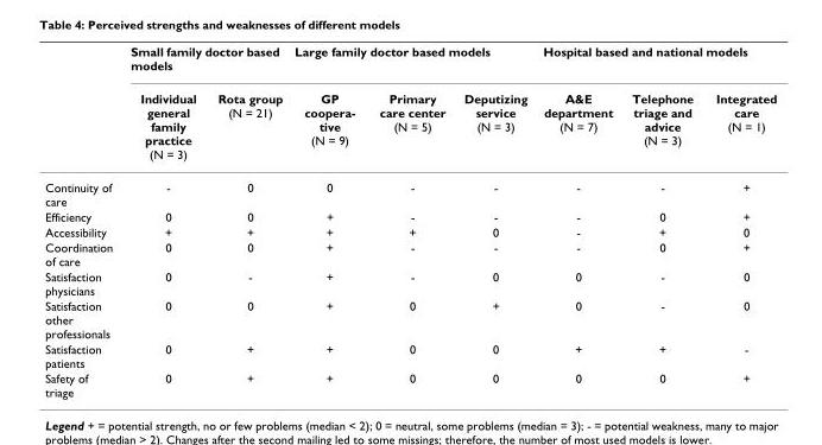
<table><thead><tr><td rowspan="2"></td><td colspan="2">Small family doctor based models</td><td colspan="3">Large family doctor based models</td><td colspan="3">Hospital based and national models</td></tr><tr><td>Individual general family practice (N = 3)</td><td>Rota group (N = 21)</td><td>GP coopera- tive (N = 9)</td><td>Primary care center (N = 5)</td><td>Deputizing service (N = 3)</td><td>A&amp;E department (N = 7)</td><td>Telephone triage and advice (N = 3)</td><td>Integrated care (N = 1)</td></tr></thead><tbody><tr><td>Continuity of care</td><td>-</td><td>0</td><td>0</td><td>-</td><td>-</td><td>-</td><td>-</td><td>+</td></tr><tr><td>Efficiency</td><td>0</td><td>0</td><td>+</td><td>-</td><td>-</td><td>-</td><td>0</td><td>+</td></tr><tr><td>Accessibility</td><td>+</td><td>+</td><td>+</td><td>+</td><td>0</td><td>-</td><td>+</td><td>0</td></tr><tr><td>Coordination of care</td><td>0</td><td>0</td><td>+</td><td>-</td><td>-</td><td>-</td><td>0</td><td>+</td></tr><tr><td>Satisfaction physicians</td><td>0</td><td>-</td><td>+</td><td>-</td><td>0</td><td>0</td><td>-</td><td>0</td></tr><tr><td>Satisfaction other professionals</td><td>0</td><td>0</td><td>+</td><td>0</td><td>+</td><td>0</td><td>-</td><td>0</td></tr><tr><td>Satisfaction patients</td><td>0</td><td>+</td><td>+</td><td>0</td><td>0</td><td>+</td><td>+</td><td>-</td></tr><tr><td>Safety of triage</td><td>0</td><td>+</td><td>+</td><td>0</td><td>0</td><td>0</td><td>0</td><td>+</td></tr></tbody></table>